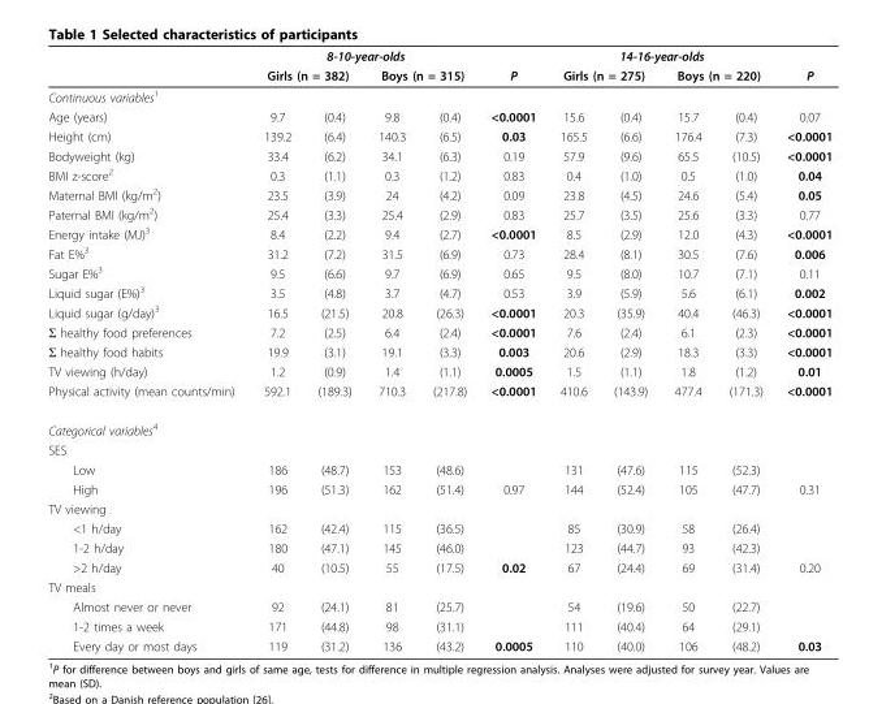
<table><thead><tr><td rowspan="3">Continuous variables<sup>1</sup></td><td colspan="4">8-10-year-olds</td><td rowspan="3">P</td><td colspan="4">14-16-year-olds</td><td rowspan="3">P</td></tr><tr><td colspan="2">Girls (n = 382)</td><td colspan="2">Boys (n = 315)</td><td colspan="2">Girls (n = 275)</td><td colspan="2">Boys (n = 220)</td></tr><tr><td></td><td></td><td></td><td></td><td></td><td></td><td></td><td></td></tr></thead><tbody><tr><td>Age (years)</td><td>9.7</td><td>(0.4)</td><td>9.8</td><td>(0.4)</td><td>&lt;0.0001</td><td>15.6</td><td>(0.4)</td><td>15.7</td><td>(0.4)</td><td>0.07</td></tr><tr><td>Height (cm)</td><td>139.2</td><td>(6.4)</td><td>140.3</td><td>(6.5)</td><td>0.03</td><td>165.5</td><td>(6.6)</td><td>176.4</td><td>(7.3)</td><td>&lt;0.0001</td></tr><tr><td>Bodyweight (kg)</td><td>33.4</td><td>(6.2)</td><td>34.1</td><td>(6.3)</td><td>0.19</td><td>57.9</td><td>(9.6)</td><td>65.5</td><td>(10.5)</td><td>&lt;0.0001</td></tr><tr><td>BMI z-score<sup>2</sup></td><td>0.3</td><td>(1.1)</td><td>0.3</td><td>(1.2)</td><td>0.83</td><td>0.4</td><td>(1.0)</td><td>0.5</td><td>(1.0)</td><td>0.04</td></tr><tr><td>Maternal BMI (kg/m<sup>2</sup>)</td><td>23.5</td><td>(3.9)</td><td>24</td><td>(4.2)</td><td>0.09</td><td>23.8</td><td>(4.5)</td><td>24.6</td><td>(5.4)</td><td>0.05</td></tr><tr><td>Paternal BMI (kg/m<sup>2</sup>)</td><td>25.4</td><td>(3.3)</td><td>25.4</td><td>(2.9)</td><td>0.83</td><td>25.7</td><td>(3.5)</td><td>25.6</td><td>(3.3)</td><td>0.77</td></tr><tr><td>Energy intake (MJ)<sup>3</sup></td><td>8.4</td><td>(2.2)</td><td>9.4</td><td>(2.7)</td><td>&lt;0.0001</td><td>8.5</td><td>(2.9)</td><td>12.0</td><td>(4.3)</td><td>&lt;0.0001</td></tr><tr><td>Fat E%<sup>3</sup></td><td>31.2</td><td>(7.2)</td><td>31.5</td><td>(6.9)</td><td>0.73</td><td>28.4</td><td>(8.1)</td><td>30.5</td><td>(7.6)</td><td>0.006</td></tr><tr><td>Sugar E%<sup>3</sup></td><td>9.5</td><td>(6.6)</td><td>9.7</td><td>(6.9)</td><td>0.65</td><td>9.5</td><td>(8.0)</td><td>10.7</td><td>(7.1)</td><td>0.11</td></tr><tr><td>Liquid sugar (E%)<sup>3</sup></td><td>3.5</td><td>(4.8)</td><td>3.7</td><td>(4.7)</td><td>0.53</td><td>3.9</td><td>(5.9)</td><td>5.6</td><td>(6.1)</td><td>0.002</td></tr><tr><td>Liquid sugar (g/day)<sup>3</sup></td><td>16.5</td><td>(21.5)</td><td>20.8</td><td>(26.3)</td><td>&lt;0.0001</td><td>20.3</td><td>(35.9)</td><td>40.4</td><td>(46.3)</td><td>&lt;0.0001</td></tr><tr><td>Σ healthy food preferences</td><td>7.2</td><td>(2.5)</td><td>6.4</td><td>(2.4)</td><td>&lt;0.0001</td><td>7.6</td><td>(2.4)</td><td>6.1</td><td>(2.3)</td><td>&lt;0.0001</td></tr><tr><td>Σ healthy food habits</td><td>19.9</td><td>(3.1)</td><td>19.1</td><td>(3.3)</td><td>0.003</td><td>20.6</td><td>(2.9)</td><td>18.3</td><td>(3.3)</td><td>&lt;0.0001</td></tr><tr><td>TV viewing (h/day)</td><td>1.2</td><td>(0.9)</td><td>1.4</td><td>(1.1)</td><td>0.0005</td><td>1.5</td><td>(1.1)</td><td>1.8</td><td>(1.2)</td><td>0.01</td></tr><tr><td>Physical activity (mean counts/min)</td><td>592.1</td><td>(189.3)</td><td>710.3</td><td>(217.8)</td><td>&lt;0.0001</td><td>410.6</td><td>(143.9)</td><td>477.4</td><td>(171.3)</td><td>&lt;0.0001</td></tr><tr><td colspan="11">Categorical variables<sup>4</sup></td></tr><tr><td colspan="11">SES</td></tr><tr><td>Low</td><td>186</td><td>(48.7)</td><td>153</td><td>(48.6)</td><td></td><td>131</td><td>(47.6)</td><td>115</td><td>(52.3)</td><td></td></tr><tr><td>High</td><td>196</td><td>(51.3)</td><td>162</td><td>(51.4)</td><td>0.97</td><td>144</td><td>(52.4)</td><td>105</td><td>(47.7)</td><td>0.31</td></tr><tr><td colspan="11">TV viewing</td></tr><tr><td>&lt;1 h/day</td><td>162</td><td>(42.4)</td><td>115</td><td>(36.5)</td><td></td><td>85</td><td>(30.9)</td><td>58</td><td>(26.4)</td><td></td></tr><tr><td>1-2 h/day</td><td>180</td><td>(47.1)</td><td>145</td><td>(46.0)</td><td></td><td>123</td><td>(44.7)</td><td>93</td><td>(42.3)</td><td></td></tr><tr><td>&gt;2 h/day</td><td>40</td><td>(10.5)</td><td>55</td><td>(17.5)</td><td>0.02</td><td>67</td><td>(24.4)</td><td>69</td><td>(31.4)</td><td>0.20</td></tr><tr><td colspan="11">TV meals</td></tr><tr><td>Almost never or never</td><td>92</td><td>(24.1)</td><td>81</td><td>(25.7)</td><td></td><td>54</td><td>(19.6)</td><td>50</td><td>(22.7)</td><td></td></tr><tr><td>1-2 times a week</td><td>171</td><td>(44.8)</td><td>98</td><td>(31.1)</td><td></td><td>111</td><td>(40.4)</td><td>64</td><td>(29.1)</td><td></td></tr><tr><td>Every day or most days</td><td>119</td><td>(31.2)</td><td>136</td><td>(43.2)</td><td>0.0005</td><td>110</td><td>(40.0)</td><td>106</td><td>(48.2)</td><td>0.03</td></tr></tbody></table>